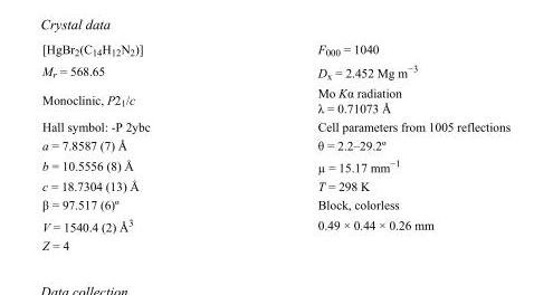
<table><tbody><tr><td>[HgBr<sub>2</sub>(C<sub>14</sub>H<sub>12</sub>N<sub>2</sub>)]</td><td>F000 = 1040</td></tr><tr><td>M<sub>r</sub> = 568.65</td><td>D<sub>x</sub> = 2.452 Mg m<sup>−3</sup></td></tr><tr><td>Monoclinic, P2<sub>1</sub>/c</td><td>Mo Kα radiation λ = 0.71073 Å</td></tr><tr><td>Hall symbol: -P 2ybc</td><td>Cell parameters from 1005 reflections</td></tr><tr><td>a = 7.8587 (7) Å</td><td>θ = 2.2–29.2º</td></tr><tr><td>b = 10.5556 (8) Å</td><td>µ = 15.17 mm<sup>−1</sup></td></tr><tr><td>c = 18.7304 (13) Å</td><td>T = 298 K</td></tr><tr><td>β = 97.517 (6)º</td><td>Block, colorless</td></tr><tr><td>V = 1540.4 (2) Å<sup>3</sup></td><td>0.49 × 0.44 × 0.26 mm</td></tr><tr><td>Z = 4</td><td></td></tr></tbody></table>